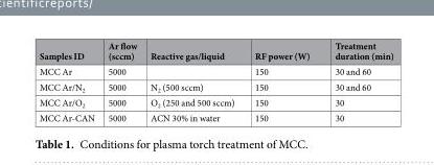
<table><thead><tr><td>Samples ID</td><td>Ar flow (sccm)</td><td>Reactive gas/liquid</td><td>RF power (W)</td><td>Treatment duration (min)</td></tr></thead><tbody><tr><td>MCC Ar</td><td>5000</td><td></td><td>150</td><td>30 and 60</td></tr><tr><td>MCC Ar/N<sub>2</sub></td><td>5000</td><td>N<sub>2</sub> (500 sccm)</td><td>150</td><td>30 and 60</td></tr><tr><td>MCC Ar/O<sub>2</sub></td><td>5000</td><td>O<sub>2</sub> (250 and 500 sccm)</td><td>150</td><td>30</td></tr><tr><td>MCC Ar-CAN</td><td>5000</td><td>ACN 30% in water</td><td>150</td><td>30</td></tr></tbody></table>